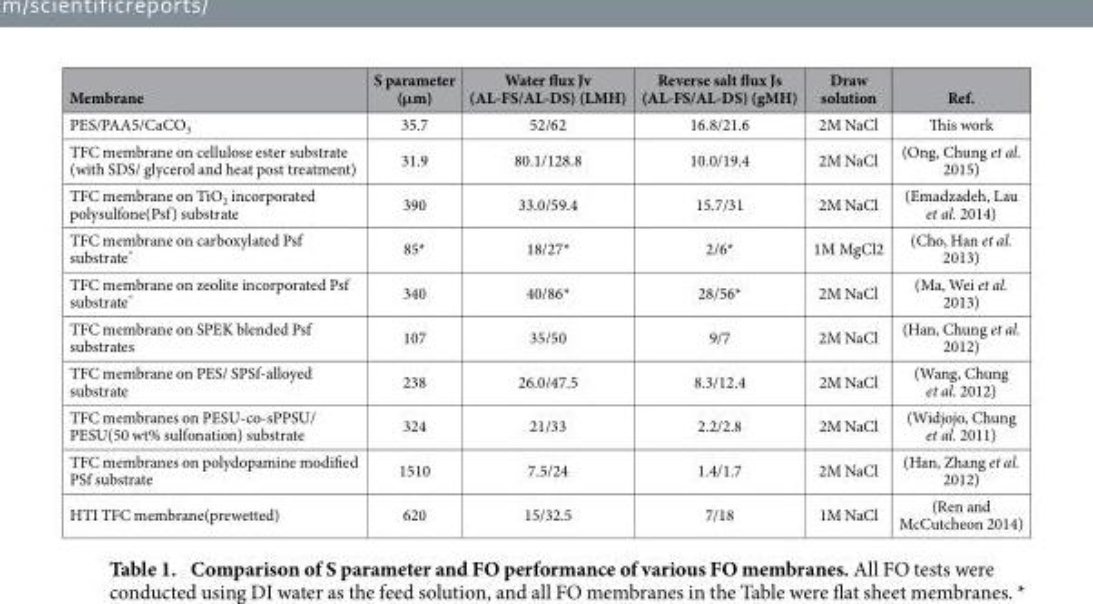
<table><thead><tr><td>Membrane</td><td>S parameter (μm)</td><td>Water flux Jv (AL-FS/AL-DS) (LMH)</td><td>Reverse salt flux Js (AL-FS/AL-DS) (gMH)</td><td>Draw solution</td><td>Ref.</td></tr></thead><tbody><tr><td>PES/PAA5/CaCO<sub>3</sub></td><td>35.7</td><td>52/62</td><td>16.8/21.6</td><td>2M NaCl</td><td>This work</td></tr><tr><td>TFC membrane on cellulose ester substrate (with SDS/ glycerol and heat post treatment)</td><td>31.9</td><td>80.1/128.8</td><td>10.0/19.4</td><td>2M NaCl</td><td>(Ong, Chung et al. 2015)</td></tr><tr><td>TFC membrane on TiO<sub>2</sub> incorporated polysulfone(Psf) substrate</td><td>390</td><td>33.0/59.4</td><td>15.7/31</td><td>2M NaCl</td><td>(Emadzadeh, Lau et al. 2014)</td></tr><tr><td>TFC membrane on carboxylated Psf substrate*</td><td>85*</td><td>18/27*</td><td>2/6*</td><td>1M MgCl2</td><td>(Cho, Han et al. 2013)</td></tr><tr><td>TFC membrane on zeolite incorporated Psf substrate*</td><td>340</td><td>40/86*</td><td>28/56*</td><td>2M NaCl</td><td>(Ma, Wei et al. 2013)</td></tr><tr><td>TFC membrane on SPEK blended Psf substrates</td><td>107</td><td>35/50</td><td>9/7</td><td>2M NaCl</td><td>(Han, Chung et al. 2012)</td></tr><tr><td>TFC membrane on PES/ SPSf-alloyed substrate</td><td>238</td><td>26.0/47.5</td><td>8.3/12.4</td><td>2M NaCl</td><td>(Wang, Chung et al. 2012)</td></tr><tr><td>TFC membranes on PESU-co-sPPSU/ PESU(50 wt% sulfonation) substrate</td><td>324</td><td>21/33</td><td>2.2/2.8</td><td>2M NaCl</td><td>(Widjojo, Chung et al. 2011)</td></tr><tr><td>TFC membranes on polydopamine modified PSf substrate</td><td>1510</td><td>7.5/24</td><td>1.4/1.7</td><td>2M NaCl</td><td>(Han, Zhang et al. 2012)</td></tr><tr><td>HTI TFC membrane(prewetted)</td><td>620</td><td>15/32.5</td><td>7/18</td><td>1M NaCl</td><td>(Ren and McCutcheon 2014)</td></tr></tbody></table>